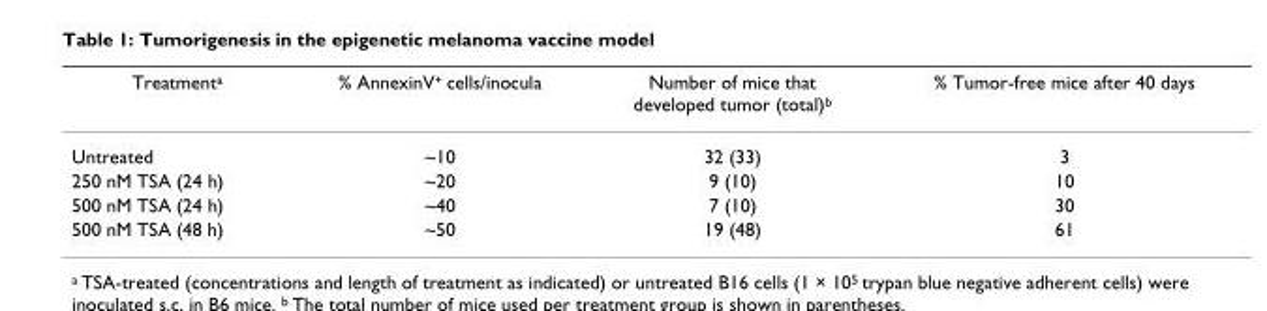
<table><thead><tr><td>Treatment<sup>a</sup></td><td>% AnnexinV<sup>+</sup> cells/inocula</td><td>Number of mice that developed tumor (total)<sup>b</sup></td><td>% Tumor-free mice after 40 days</td></tr></thead><tbody><tr><td>Untreated</td><td>~10</td><td>32 (33)</td><td>3</td></tr><tr><td>250 nM TSA (24 h)</td><td>~20</td><td>9 (10)</td><td>10</td></tr><tr><td>500 nM TSA (24 h)</td><td>~40</td><td>7 (10)</td><td>30</td></tr><tr><td>500 nM TSA (48 h)</td><td>~50</td><td>19 (48)</td><td>61</td></tr></tbody></table>